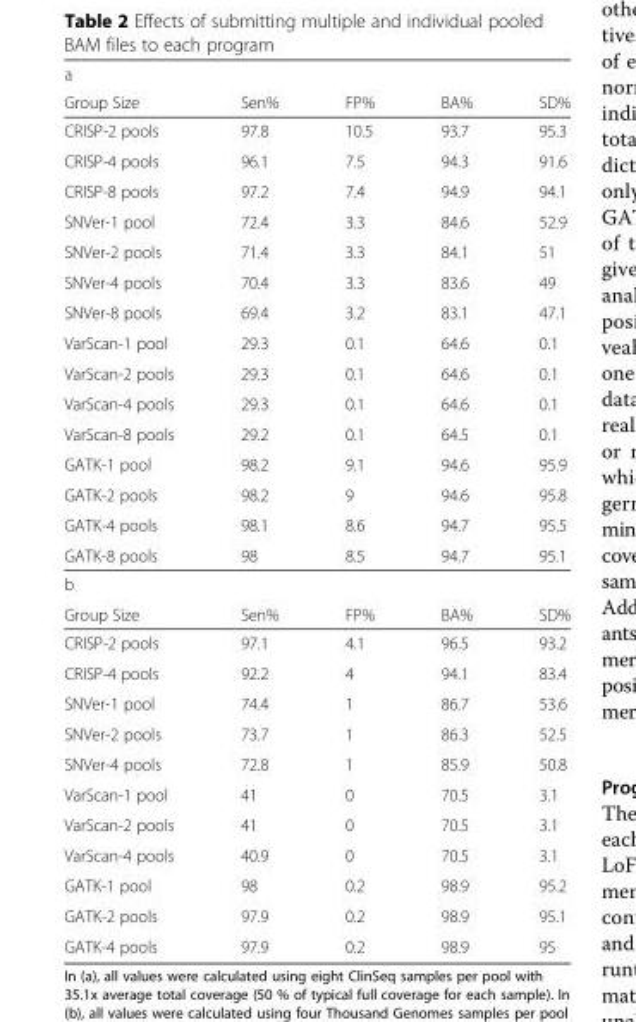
<table><thead><tr><td colspan="5">a</td></tr><tr><td>Group Size</td><td>Sen%</td><td>FP%</td><td>BA%</td><td>SD%</td></tr></thead><tbody><tr><td>CRISP-2 pools</td><td>97.8</td><td>10.5</td><td>93.7</td><td>95.3</td></tr><tr><td>CRISP-4 pools</td><td>96.1</td><td>7.5</td><td>94.3</td><td>91.6</td></tr><tr><td>CRISP-8 pools</td><td>97.2</td><td>7.4</td><td>94.9</td><td>94.1</td></tr><tr><td>SNVer-1 pool</td><td>72.4</td><td>3.3</td><td>84.6</td><td>52.9</td></tr><tr><td>SNVer-2 pools</td><td>71.4</td><td>3.3</td><td>84.1</td><td>51</td></tr><tr><td>SNVer-4 pools</td><td>70.4</td><td>3.3</td><td>83.6</td><td>49</td></tr><tr><td>SNVer-8 pools</td><td>69.4</td><td>3.2</td><td>83.1</td><td>47.1</td></tr><tr><td>VarScan-1 pool</td><td>29.3</td><td>0.1</td><td>64.6</td><td>0.1</td></tr><tr><td>VarScan-2 pools</td><td>29.3</td><td>0.1</td><td>64.6</td><td>0.1</td></tr><tr><td>VarScan-4 pools</td><td>29.3</td><td>0.1</td><td>64.6</td><td>0.1</td></tr><tr><td>VarScan-8 pools</td><td>29.2</td><td>0.1</td><td>64.5</td><td>0.1</td></tr><tr><td>GATK-1 pool</td><td>98.2</td><td>9.1</td><td>94.6</td><td>95.9</td></tr><tr><td>GATK-2 pools</td><td>98.2</td><td>9</td><td>94.6</td><td>95.8</td></tr><tr><td>GATK-4 pools</td><td>98.1</td><td>8.6</td><td>94.7</td><td>95.5</td></tr><tr><td>GATK-8 pools</td><td>98</td><td>8.5</td><td>94.7</td><td>95.1</td></tr><tr><td colspan="5">b</td></tr><tr><td>Group Size</td><td>Sen%</td><td>FP%</td><td>BA%</td><td>SD%</td></tr><tr><td>CRISP-2 pools</td><td>97.1</td><td>4.1</td><td>96.5</td><td>93.2</td></tr><tr><td>CRISP-4 pools</td><td>92.2</td><td>4</td><td>94.1</td><td>83.4</td></tr><tr><td>SNVer-1 pool</td><td>74.4</td><td>1</td><td>86.7</td><td>53.6</td></tr><tr><td>SNVer-2 pools</td><td>73.7</td><td>1</td><td>86.3</td><td>52.5</td></tr><tr><td>SNVer-4 pools</td><td>72.8</td><td>1</td><td>85.9</td><td>50.8</td></tr><tr><td>VarScan-1 pool</td><td>41</td><td>0</td><td>70.5</td><td>3.1</td></tr><tr><td>VarScan-2 pools</td><td>41</td><td>0</td><td>70.5</td><td>3.1</td></tr><tr><td>VarScan-4 pools</td><td>40.9</td><td>0</td><td>70.5</td><td>3.1</td></tr><tr><td>GATK-1 pool</td><td>98</td><td>0.2</td><td>98.9</td><td>95.2</td></tr><tr><td>GATK-2 pools</td><td>97.9</td><td>0.2</td><td>98.9</td><td>95.1</td></tr><tr><td>GATK-4 pools</td><td>97.9</td><td>0.2</td><td>98.9</td><td>95</td></tr></tbody></table>